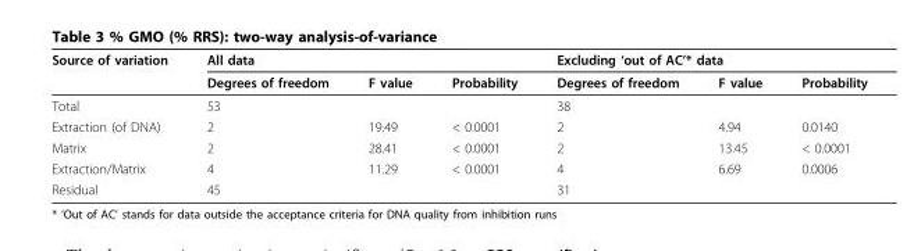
<table><thead><tr><td rowspan="2">Source of variation</td><td colspan="3">All data</td><td colspan="3">Excluding ‘out of AC’* data</td></tr><tr><td>Degrees of freedom</td><td>F value</td><td>Probability</td><td>Degrees of freedom</td><td>F value</td><td>Probability</td></tr></thead><tbody><tr><td>Total</td><td>53</td><td></td><td></td><td>38</td><td></td><td></td></tr><tr><td>Extraction (of DNA)</td><td>2</td><td>19.49</td><td>&lt; 0.0001</td><td>2</td><td>4.94</td><td>0.0140</td></tr><tr><td>Matrix</td><td>2</td><td>28.41</td><td>&lt; 0.0001</td><td>2</td><td>13.45</td><td>&lt; 0.0001</td></tr><tr><td>Extraction/Matrix</td><td>4</td><td>11.29</td><td>&lt; 0.0001</td><td>4</td><td>6.69</td><td>0.0006</td></tr><tr><td>Residual</td><td>45</td><td></td><td></td><td>31</td><td></td><td></td></tr></tbody></table>